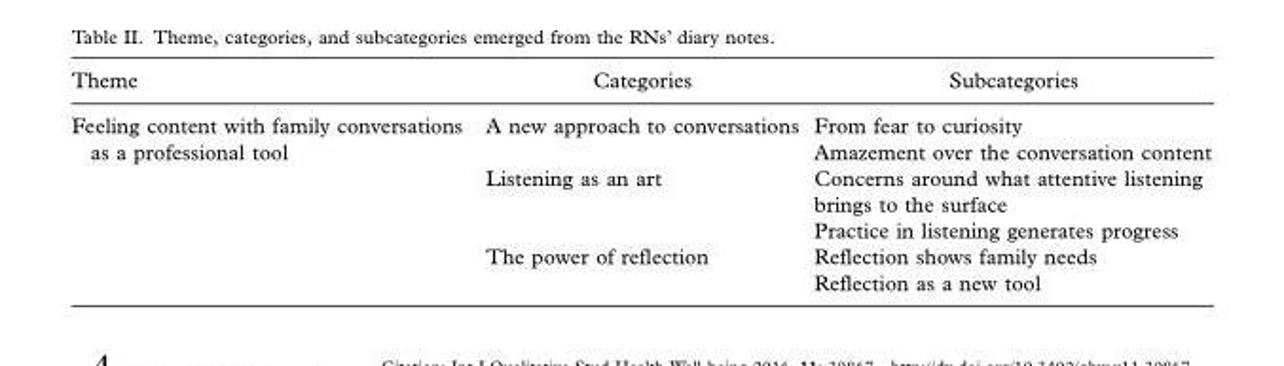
<table><thead><tr><td>Theme</td><td>Categories</td><td>Subcategories</td></tr></thead><tbody><tr><td rowspan="3">Feeling content with family conversations as a professional tool</td><td>A new approach to conversations</td><td>From fear to curiosity Amazement over the conversation content</td></tr><tr><td>Listening as an art</td><td>Concerns around what attentive listening brings to the surface Practice in listening generates progress</td></tr><tr><td>The power of reflection</td><td>Reflection shows family needs Reflection as a new tool</td></tr></tbody></table>